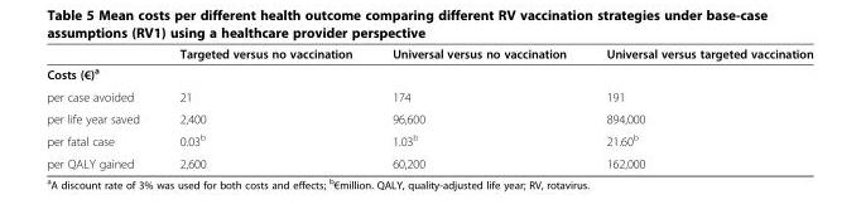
<table><thead><tr><td></td><td>Targeted versus no vaccination</td><td>Universal versus no vaccination</td><td>Universal versus targeted vaccination</td></tr></thead><tbody><tr><td colspan="4">Costs (€)<sup>a</sup></td></tr><tr><td>per case avoided</td><td>21</td><td>174</td><td>191</td></tr><tr><td>per life year saved</td><td>2,400</td><td>96,600</td><td>894,000</td></tr><tr><td>per fatal case</td><td>0.03<sup>b</sup></td><td>1.03<sup>b</sup></td><td>21.60<sup>b</sup></td></tr><tr><td>per QALY gained</td><td>2,600</td><td>60,200</td><td>162,000</td></tr></tbody></table>